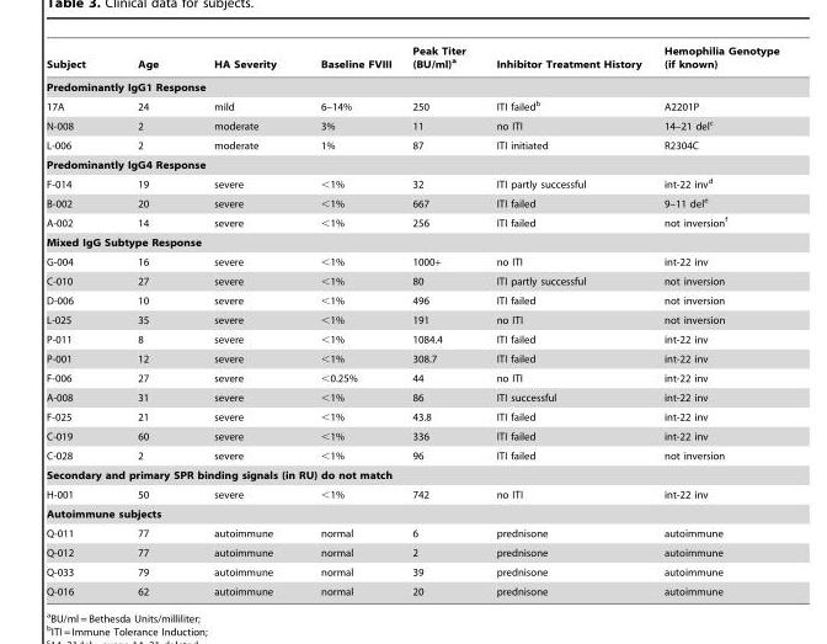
<table><thead><tr><td>Subject</td><td>Age</td><td>HA Severity</td><td>Baseline FVIII</td><td>Peak Titer (BU/ml)<sup>a</sup></td><td>Inhibitor Treatment History</td><td>Hemophilia Genotype (if known)</td></tr></thead><tbody><tr><td colspan="7">Predominantly IgG1 Response</td></tr><tr><td>17A</td><td>24</td><td>mild</td><td>6–14%</td><td>250</td><td>ITI failed<sup>b</sup></td><td>A2201P</td></tr><tr><td>N-008</td><td>2</td><td>moderate</td><td>3%</td><td>11</td><td>no ITI</td><td>14–21 del<sup>c</sup></td></tr><tr><td>L-006</td><td>2</td><td>moderate</td><td>1%</td><td>87</td><td>ITI initiated</td><td>R2304C</td></tr><tr><td colspan="7">Predominantly IgG4 Response</td></tr><tr><td>F-014</td><td>19</td><td>severe</td><td>&lt;1%</td><td>32</td><td>ITI partly successful</td><td>int-22 inv<sup>d</sup></td></tr><tr><td>B-002</td><td>20</td><td>severe</td><td>&lt;1%</td><td>667</td><td>ITI failed</td><td>9–11 del<sup>e</sup></td></tr><tr><td>A-002</td><td>14</td><td>severe</td><td>&lt;1%</td><td>256</td><td>ITI failed</td><td>not inversion<sup>f</sup></td></tr><tr><td colspan="7">Mixed IgG Subtype Response</td></tr><tr><td>G-004</td><td>16</td><td>severe</td><td>&lt;1%</td><td>1000+</td><td>no ITI</td><td>int-22 inv</td></tr><tr><td>C-010</td><td>27</td><td>severe</td><td>&lt;1%</td><td>80</td><td>ITI partly successful</td><td>not inversion</td></tr><tr><td>D-006</td><td>10</td><td>severe</td><td>&lt;1%</td><td>496</td><td>ITI failed</td><td>not inversion</td></tr><tr><td>L-025</td><td>35</td><td>severe</td><td>&lt;1%</td><td>191</td><td>no ITI</td><td>not inversion</td></tr><tr><td>P-011</td><td>8</td><td>severe</td><td>&lt;1%</td><td>1084.4</td><td>ITI failed</td><td>int-22 inv</td></tr><tr><td>P-001</td><td>12</td><td>severe</td><td>&lt;1%</td><td>308.7</td><td>ITI failed</td><td>int-22 inv</td></tr><tr><td>F-006</td><td>27</td><td>severe</td><td>&lt;0.25%</td><td>44</td><td>no ITI</td><td>int-22 inv</td></tr><tr><td>A-008</td><td>31</td><td>severe</td><td>&lt;1%</td><td>86</td><td>ITI successful</td><td>int-22 inv</td></tr><tr><td>F-025</td><td>21</td><td>severe</td><td>&lt;1%</td><td>43.8</td><td>ITI failed</td><td>int-22 inv</td></tr><tr><td>C-019</td><td>60</td><td>severe</td><td>&lt;1%</td><td>336</td><td>ITI failed</td><td>int-22 inv</td></tr><tr><td>C-028</td><td>2</td><td>severe</td><td>&lt;1%</td><td>96</td><td>ITI failed</td><td>not inversion</td></tr><tr><td colspan="7">Secondary and primary SPR binding signals (in RU) do not match</td></tr><tr><td>H-001</td><td>50</td><td>severe</td><td>&lt;1%</td><td>742</td><td>no ITI</td><td>int-22 inv</td></tr><tr><td colspan="7">Autoimmune subjects</td></tr><tr><td>Q-011</td><td>77</td><td>autoimmune</td><td>normal</td><td>6</td><td>prednisone</td><td>autoimmune</td></tr><tr><td>Q-012</td><td>77</td><td>autoimmune</td><td>normal</td><td>2</td><td>prednisone</td><td>autoimmune</td></tr><tr><td>Q-033</td><td>79</td><td>autoimmune</td><td>normal</td><td>39</td><td>prednisone</td><td>autoimmune</td></tr><tr><td>Q-016</td><td>62</td><td>autoimmune</td><td>normal</td><td>20</td><td>prednisone</td><td>autoimmune</td></tr></tbody></table>